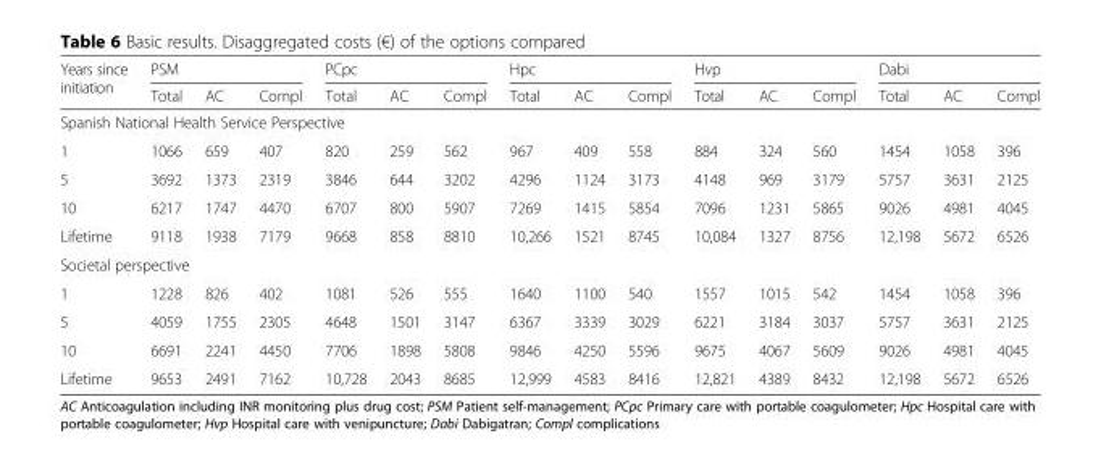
<table><thead><tr><td rowspan="2">Years since initiation</td><td colspan="3">PSM</td><td colspan="3">PCpc</td><td colspan="3">Hpc</td><td colspan="3">Hvp</td><td colspan="3">Dabi</td></tr><tr><td>Total</td><td>AC</td><td>Compl</td><td>Total</td><td>AC</td><td>Compl</td><td>Total</td><td>AC</td><td>Compl</td><td>Total</td><td>AC</td><td>Compl</td><td>Total</td><td>AC</td><td>Compl</td></tr></thead><tbody><tr><td colspan="16">Spanish National Health Service Perspective</td></tr><tr><td>1</td><td>1066</td><td>659</td><td>407</td><td>820</td><td>259</td><td>562</td><td>967</td><td>409</td><td>558</td><td>884</td><td>324</td><td>560</td><td>1454</td><td>1058</td><td>396</td></tr><tr><td>5</td><td>3692</td><td>1373</td><td>2319</td><td>3846</td><td>644</td><td>3202</td><td>4296</td><td>1124</td><td>3173</td><td>4148</td><td>969</td><td>3179</td><td>5757</td><td>3631</td><td>2125</td></tr><tr><td>10</td><td>6217</td><td>1747</td><td>4470</td><td>6707</td><td>800</td><td>5907</td><td>7269</td><td>1415</td><td>5854</td><td>7096</td><td>1231</td><td>5865</td><td>9026</td><td>4981</td><td>4045</td></tr><tr><td>Lifetime</td><td>9118</td><td>1938</td><td>7179</td><td>9668</td><td>858</td><td>8810</td><td>10,266</td><td>1521</td><td>8745</td><td>10,084</td><td>1327</td><td>8756</td><td>12,198</td><td>5672</td><td>6526</td></tr><tr><td colspan="16">Societal perspective</td></tr><tr><td>1</td><td>1228</td><td>826</td><td>402</td><td>1081</td><td>526</td><td>555</td><td>1640</td><td>1100</td><td>540</td><td>1557</td><td>1015</td><td>542</td><td>1454</td><td>1058</td><td>396</td></tr><tr><td>5</td><td>4059</td><td>1755</td><td>2305</td><td>4648</td><td>1501</td><td>3147</td><td>6367</td><td>3339</td><td>3029</td><td>6221</td><td>3184</td><td>3037</td><td>5757</td><td>3631</td><td>2125</td></tr><tr><td>10</td><td>6691</td><td>2241</td><td>4450</td><td>7706</td><td>1898</td><td>5808</td><td>9846</td><td>4250</td><td>5596</td><td>9675</td><td>4067</td><td>5609</td><td>9026</td><td>4981</td><td>4045</td></tr><tr><td>Lifetime</td><td>9653</td><td>2491</td><td>7162</td><td>10,728</td><td>2043</td><td>8685</td><td>12,999</td><td>4583</td><td>8416</td><td>12,821</td><td>4389</td><td>8432</td><td>12,198</td><td>5672</td><td>6526</td></tr></tbody></table>